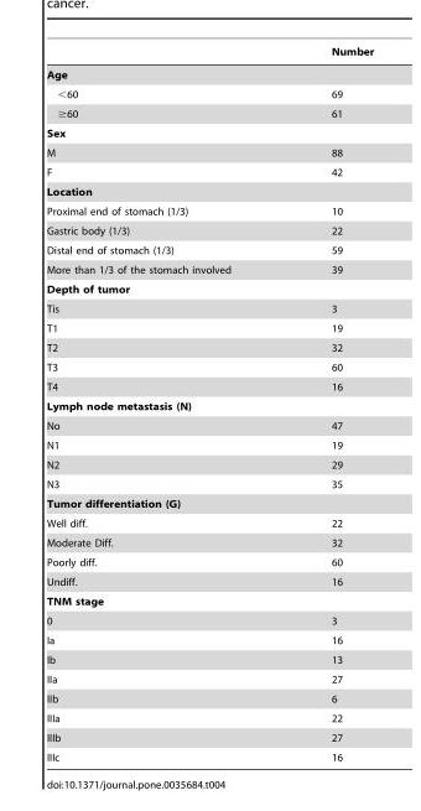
<table><thead><tr><td></td><td>Number</td></tr></thead><tbody><tr><td colspan="2">Age</td></tr><tr><td>&lt;60</td><td>69</td></tr><tr><td>≥60</td><td>61</td></tr><tr><td colspan="2">Sex</td></tr><tr><td>M</td><td>88</td></tr><tr><td>F</td><td>42</td></tr><tr><td colspan="2">Location</td></tr><tr><td>Proximal end of stomach (1/3)</td><td>10</td></tr><tr><td>Gastric body (1/3)</td><td>22</td></tr><tr><td>Distal end of stomach (1/3)</td><td>59</td></tr><tr><td>More than 1/3 of the stomach involved</td><td>39</td></tr><tr><td colspan="2">Depth of tumor</td></tr><tr><td>Tis</td><td>3</td></tr><tr><td>T1</td><td>19</td></tr><tr><td>T2</td><td>32</td></tr><tr><td>T3</td><td>60</td></tr><tr><td>T4</td><td>16</td></tr><tr><td colspan="2">Lymph node metastasis (N)</td></tr><tr><td>No</td><td>47</td></tr><tr><td>N1</td><td>19</td></tr><tr><td>N2</td><td>29</td></tr><tr><td>N3</td><td>35</td></tr><tr><td colspan="2">Tumor differentiation (G)</td></tr><tr><td>Well diff.</td><td>22</td></tr><tr><td>Moderate Diff.</td><td>32</td></tr><tr><td>Poorly diff.</td><td>60</td></tr><tr><td>Undiff.</td><td>16</td></tr><tr><td colspan="2">TNM stage</td></tr><tr><td>0</td><td>3</td></tr><tr><td>Ia</td><td>16</td></tr><tr><td>Ib</td><td>13</td></tr><tr><td>IIa</td><td>27</td></tr><tr><td>IIb</td><td>6</td></tr><tr><td>IIIa</td><td>22</td></tr><tr><td>IIIb</td><td>27</td></tr><tr><td>IIIc</td><td>16</td></tr></tbody></table>